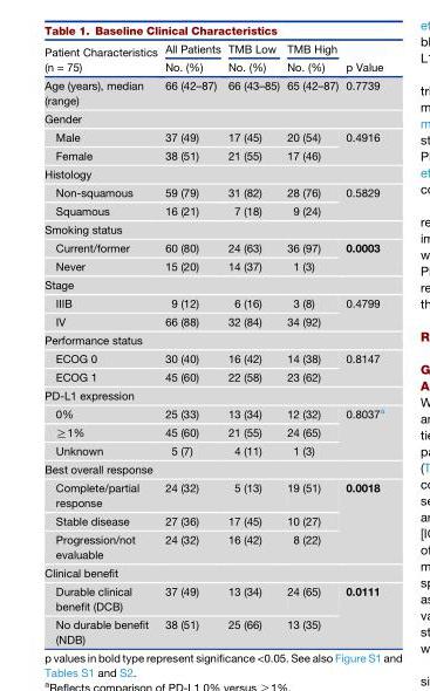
<table><thead><tr><td rowspan="2">Patient Characteristics (n = 75)</td><td rowspan="2">All Patients No. (%)</td><td rowspan="2">TMB Low No. (%)</td><td rowspan="2">TMB High No. (%)</td><td rowspan="2">p Value</td></tr><tr></tr></thead><tbody><tr><td>Age (years), median (range)</td><td>66 (42–87)</td><td>66 (43–85)</td><td>65 (42–87)</td><td>0.7739</td></tr><tr><td colspan="5">Gender</td></tr><tr><td>Male</td><td>37 (49)</td><td>17 (45)</td><td>20 (54)</td><td rowspan="2">0.4916</td></tr><tr><td>Female</td><td>38 (51)</td><td>21 (55)</td><td>17 (46)</td></tr><tr><td colspan="5">Histology</td></tr><tr><td>Non-squamous</td><td>59 (79)</td><td>31 (82)</td><td>28 (76)</td><td rowspan="2">0.5829</td></tr><tr><td>Squamous</td><td>16 (21)</td><td>7 (18)</td><td>9 (24)</td></tr><tr><td colspan="5">Smoking status</td></tr><tr><td>Current/former</td><td>60 (80)</td><td>24 (63)</td><td>36 (97)</td><td rowspan="2">0.0003</td></tr><tr><td>Never</td><td>15 (20)</td><td>14 (37)</td><td>1 (3)</td></tr><tr><td colspan="5">Stage</td></tr><tr><td>IIIB</td><td>9 (12)</td><td>6 (16)</td><td>3 (8)</td><td rowspan="2">0.4799</td></tr><tr><td>IV</td><td>66 (88)</td><td>32 (84)</td><td>34 (92)</td></tr><tr><td colspan="5">Performance status</td></tr><tr><td>ECOG 0</td><td>30 (40)</td><td>16 (42)</td><td>14 (38)</td><td rowspan="2">0.8147</td></tr><tr><td>ECOG 1</td><td>45 (60)</td><td>22 (58)</td><td>23 (62)</td></tr><tr><td colspan="5">PD-L1 expression</td></tr><tr><td>0%</td><td>25 (33)</td><td>13 (34)</td><td>12 (32)</td><td rowspan="3">0.8037<sup>a</sup></td></tr><tr><td>≥1%</td><td>45 (60)</td><td>21 (55)</td><td>24 (65)</td></tr><tr><td>Unknown</td><td>5 (7)</td><td>4 (11)</td><td>1 (3)</td></tr><tr><td colspan="5">Best overall response</td></tr><tr><td>Complete/partial response</td><td>24 (32)</td><td>5 (13)</td><td>19 (51)</td><td rowspan="3">0.0018</td></tr><tr><td>Stable disease</td><td>27 (36)</td><td>17 (45)</td><td>10 (27)</td></tr><tr><td>Progression/not evaluable</td><td>24 (32)</td><td>16 (42)</td><td>8 (22)</td></tr><tr><td colspan="5">Clinical benefit</td></tr><tr><td>Durable clinical benefit (DCB)</td><td>37 (49)</td><td>13 (34)</td><td>24 (65)</td><td rowspan="2">0.0111</td></tr><tr><td>No durable benefit (NDB)</td><td>38 (51)</td><td>25 (66)</td><td>13 (35)</td></tr></tbody></table>